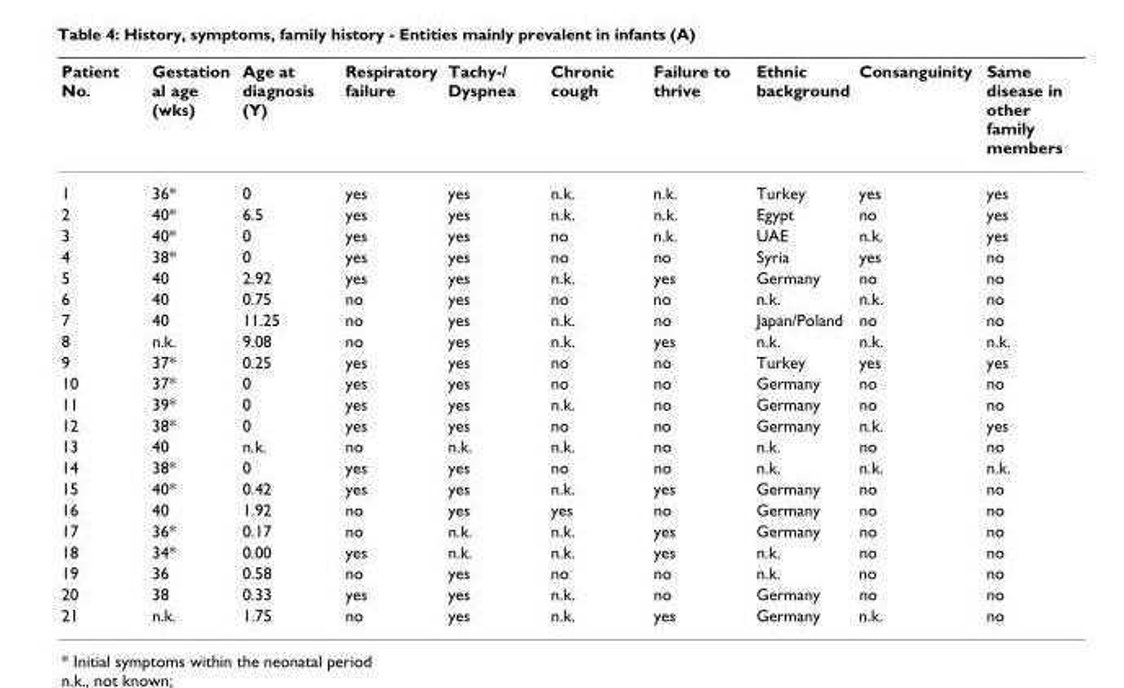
<table><thead><tr><td>Patient No.</td><td>Gestation al age (wks)</td><td>Age at diagnosis (Y)</td><td>Respiratory failure</td><td>Tachy-/ Dyspnea</td><td>Chronic cough</td><td>Failure to thrive</td><td>Ethnic background</td><td>Consanguinity</td><td>Same disease in other family members</td></tr></thead><tbody><tr><td>1</td><td>36*</td><td>0</td><td>yes</td><td>yes</td><td>n.k.</td><td>n.k.</td><td>Turkey</td><td>yes</td><td>yes</td></tr><tr><td>2</td><td>40*</td><td>6.5</td><td>yes</td><td>yes</td><td>n.k.</td><td>n.k.</td><td>Egypt</td><td>no</td><td>yes</td></tr><tr><td>3</td><td>40*</td><td>0</td><td>yes</td><td>yes</td><td>no</td><td>n.k.</td><td>UAE</td><td>n.k.</td><td>yes</td></tr><tr><td>4</td><td>38*</td><td>0</td><td>yes</td><td>yes</td><td>no</td><td>no</td><td>Syria</td><td>yes</td><td>no</td></tr><tr><td>5</td><td>40</td><td>2.92</td><td>yes</td><td>yes</td><td>n.k.</td><td>yes</td><td>Germany</td><td>no</td><td>no</td></tr><tr><td>6</td><td>40</td><td>0.75</td><td>no</td><td>yes</td><td>no</td><td>no</td><td>n.k.</td><td>n.k.</td><td>no</td></tr><tr><td>7</td><td>40</td><td>11.25</td><td>no</td><td>yes</td><td>n.k.</td><td>no</td><td>Japan/Poland</td><td>no</td><td>no</td></tr><tr><td>8</td><td>n.k.</td><td>9.08</td><td>no</td><td>yes</td><td>n.k.</td><td>yes</td><td>n.k.</td><td>n.k.</td><td>n.k.</td></tr><tr><td>9</td><td>37*</td><td>0.25</td><td>yes</td><td>yes</td><td>no</td><td>no</td><td>Turkey</td><td>yes</td><td>yes</td></tr><tr><td>10</td><td>37*</td><td>0</td><td>yes</td><td>yes</td><td>no</td><td>no</td><td>Germany</td><td>no</td><td>no</td></tr><tr><td>11</td><td>39*</td><td>0</td><td>yes</td><td>yes</td><td>n.k.</td><td>no</td><td>Germany</td><td>no</td><td>no</td></tr><tr><td>12</td><td>38*</td><td>0</td><td>yes</td><td>yes</td><td>no</td><td>no</td><td>Germany</td><td>n.k.</td><td>yes</td></tr><tr><td>13</td><td>40</td><td>n.k.</td><td>no</td><td>n.k.</td><td>n.k.</td><td>no</td><td>n.k.</td><td>no</td><td>no</td></tr><tr><td>14</td><td>38*</td><td>0</td><td>yes</td><td>yes</td><td>no</td><td>no</td><td>n.k.</td><td>n.k.</td><td>n.k.</td></tr><tr><td>15</td><td>40*</td><td>0.42</td><td>yes</td><td>yes</td><td>n.k.</td><td>yes</td><td>Germany</td><td>no</td><td>no</td></tr><tr><td>16</td><td>40</td><td>1.92</td><td>no</td><td>yes</td><td>yes</td><td>no</td><td>Germany</td><td>no</td><td>no</td></tr><tr><td>17</td><td>36*</td><td>0.17</td><td>no</td><td>n.k.</td><td>n.k.</td><td>yes</td><td>Germany</td><td>no</td><td>no</td></tr><tr><td>18</td><td>34*</td><td>0.00</td><td>yes</td><td>n.k.</td><td>n.k.</td><td>yes</td><td>n.k.</td><td>no</td><td>no</td></tr><tr><td>19</td><td>36</td><td>0.58</td><td>no</td><td>yes</td><td>no</td><td>no</td><td>n.k.</td><td>no</td><td>no</td></tr><tr><td>20</td><td>38</td><td>0.33</td><td>yes</td><td>yes</td><td>n.k.</td><td>no</td><td>Germany</td><td>no</td><td>no</td></tr><tr><td>21</td><td>n.k.</td><td>1.75</td><td>no</td><td>yes</td><td>n.k.</td><td>yes</td><td>Germany</td><td>n.k.</td><td>no</td></tr></tbody></table>